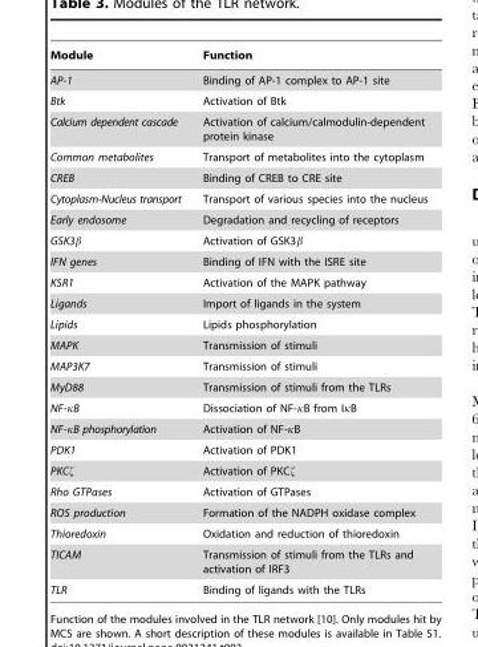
<table><thead><tr><td>Module</td><td>Function</td></tr></thead><tbody><tr><td>AP-1</td><td>Binding of AP-1 complex to AP-1 site</td></tr><tr><td>Btk</td><td>Activation of Btk</td></tr><tr><td>Calcium dependent cascade</td><td>Activation of calcium/calmodulin-dependent protein kinase</td></tr><tr><td>Common metabolites</td><td>Transport of metabolites into the cytoplasm</td></tr><tr><td>CREB</td><td>Binding of CREB to CRE site</td></tr><tr><td>Cytoplasm-Nucleus transport</td><td>Transport of various species into the nucleus</td></tr><tr><td>Early endosome</td><td>Degradation and recycling of receptors</td></tr><tr><td>GSK3b</td><td>Activation of GSK3b</td></tr><tr><td>IFN genes</td><td>Binding of IFN with the ISRE site</td></tr><tr><td>KSR1</td><td>Activation of the MAPK pathway</td></tr><tr><td>Ligands</td><td>Import of ligands in the system</td></tr><tr><td>Lipids</td><td>Lipids phosphorylation</td></tr><tr><td>MAPK</td><td>Transmission of stimuli</td></tr><tr><td>MAP3K7</td><td>Transmission of stimuli</td></tr><tr><td>MyD88</td><td>Transmission of stimuli from the TLRs</td></tr><tr><td>NF-kB</td><td>Dissociation of NF-kB from IkB</td></tr><tr><td>NF-kB phosphorylation</td><td>Activation of NF-kB</td></tr><tr><td>PDK1</td><td>Activation of PDK1</td></tr><tr><td>PKCf</td><td>Activation of PKCf</td></tr><tr><td>Rho GTPases</td><td>Activation of GTPases</td></tr><tr><td>ROS production</td><td>Formation of the NADPH oxidase complex</td></tr><tr><td>Thioredoxin</td><td>Oxidation and reduction of thioredoxin</td></tr><tr><td>TICAM</td><td>Transmission of stimuli from the TLRs and activation of IRF3</td></tr><tr><td>TLR</td><td>Binding of ligands with the TLRs</td></tr></tbody></table>